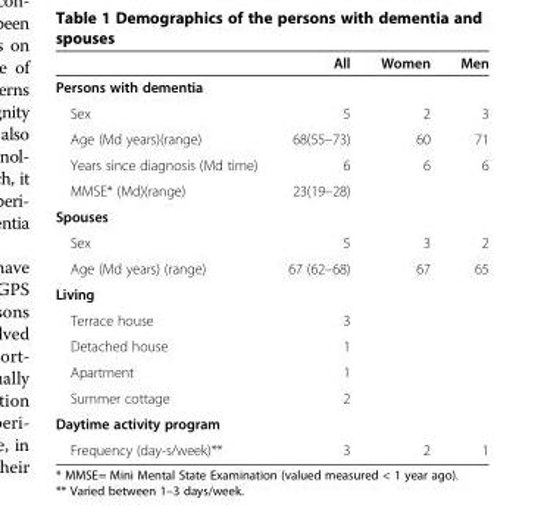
<table><thead><tr><td></td><td>All</td><td>Women</td><td>Men</td></tr></thead><tbody><tr><td colspan="4">Persons with dementia</td></tr><tr><td>Sex</td><td>5</td><td>2</td><td>3</td></tr><tr><td>Age (Md years)(range)</td><td>68(55–73)</td><td>60</td><td>71</td></tr><tr><td>Years since diagnosis (Md time)</td><td>6</td><td>6</td><td>6</td></tr><tr><td>MMSE* (Md)(range)</td><td>23(19–28)</td><td></td><td></td></tr><tr><td colspan="4">Spouses</td></tr><tr><td>Sex</td><td>5</td><td>3</td><td>2</td></tr><tr><td>Age (Md years) (range)</td><td>67 (62–68)</td><td>67</td><td>65</td></tr><tr><td colspan="4">Living</td></tr><tr><td>Terrace house</td><td>3</td><td></td><td></td></tr><tr><td>Detached house</td><td>1</td><td></td><td></td></tr><tr><td>Apartment</td><td>1</td><td></td><td></td></tr><tr><td>Summer cottage</td><td>2</td><td></td><td></td></tr><tr><td colspan="4">Daytime activity program</td></tr><tr><td>Frequency (day-s/week)**</td><td>3</td><td>2</td><td>1</td></tr></tbody></table>